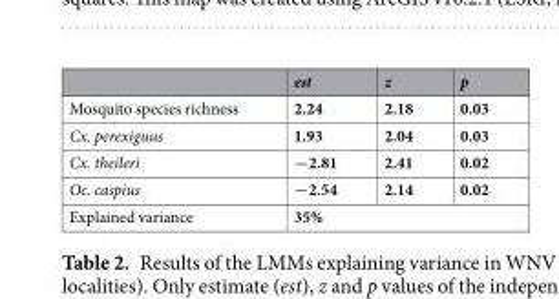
<table><thead><tr><td></td><td>est</td><td>z</td><td>p</td></tr></thead><tbody><tr><td>Mosquito species richness</td><td>2.24</td><td>2.18</td><td>0.03</td></tr><tr><td>Cx. perexiguus</td><td>1.93</td><td>2.04</td><td>0.03</td></tr><tr><td>Cx. theileri</td><td>−2.81</td><td>2.41</td><td>0.02</td></tr><tr><td>Oc. caspius</td><td>−2.54</td><td>2.14</td><td>0.02</td></tr><tr><td>Explained variance</td><td colspan="3">35%</td></tr></tbody></table>